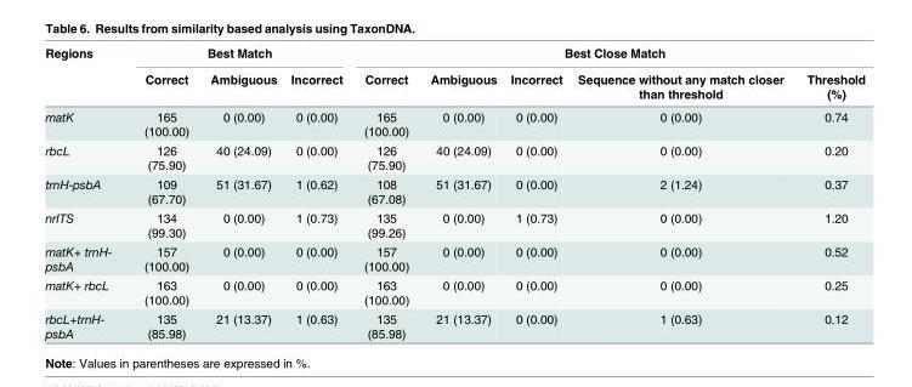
<table><thead><tr><td rowspan="2">Regions</td><td colspan="3">Best Match</td><td colspan="5">Best Close Match</td></tr><tr><td>Correct</td><td>Ambiguous</td><td>Incorrect</td><td>Correct</td><td>Ambiguous</td><td>Incorrect</td><td>Sequence without any match closer than threshold</td><td>Threshold (%)</td></tr></thead><tbody><tr><td>matK</td><td>165 (100.00)</td><td>0 (0.00)</td><td>0 (0.00)</td><td>165 (100.00)</td><td>0 (0.00)</td><td>0 (0.00)</td><td>0 (0.00)</td><td>0.74</td></tr><tr><td>rbcL</td><td>126 (75.90)</td><td>40 (24.09)</td><td>0 (0.00)</td><td>126 (75.90)</td><td>40 (24.09)</td><td>0 (0.00)</td><td>0 (0.00)</td><td>0.20</td></tr><tr><td>trnH-psbA</td><td>109 (67.70)</td><td>51 (31.67)</td><td>1 (0.62)</td><td>108 (67.08)</td><td>51 (31.67)</td><td>0 (0.00)</td><td>2 (1.24)</td><td>0.37</td></tr><tr><td>nrITS</td><td>134 (99.30)</td><td>0 (0.00)</td><td>1 (0.73)</td><td>135 (99.26)</td><td>0 (0.00)</td><td>1 (0.73)</td><td>0 (0.00)</td><td>1.20</td></tr><tr><td>matK+ trnH- psbA</td><td>157 (100.00)</td><td>0 (0.00)</td><td>0 (0.00)</td><td>157 (100.00)</td><td>0 (0.00)</td><td>0 (0.00)</td><td>0 (0.00)</td><td>0.52</td></tr><tr><td>matK+ rbcL</td><td>163 (100.00)</td><td>0 (0.00)</td><td>0 (0.00)</td><td>163 (100.00)</td><td>0 (0.00)</td><td>0 (0.00)</td><td>0 (0.00)</td><td>0.25</td></tr><tr><td>rbcL+trnH- psbA</td><td>135 (85.98)</td><td>21 (13.37)</td><td>1 (0.63)</td><td>135 (85.98)</td><td>21 (13.37)</td><td>0 (0.00)</td><td>1 (0.63)</td><td>0.12</td></tr></tbody></table>